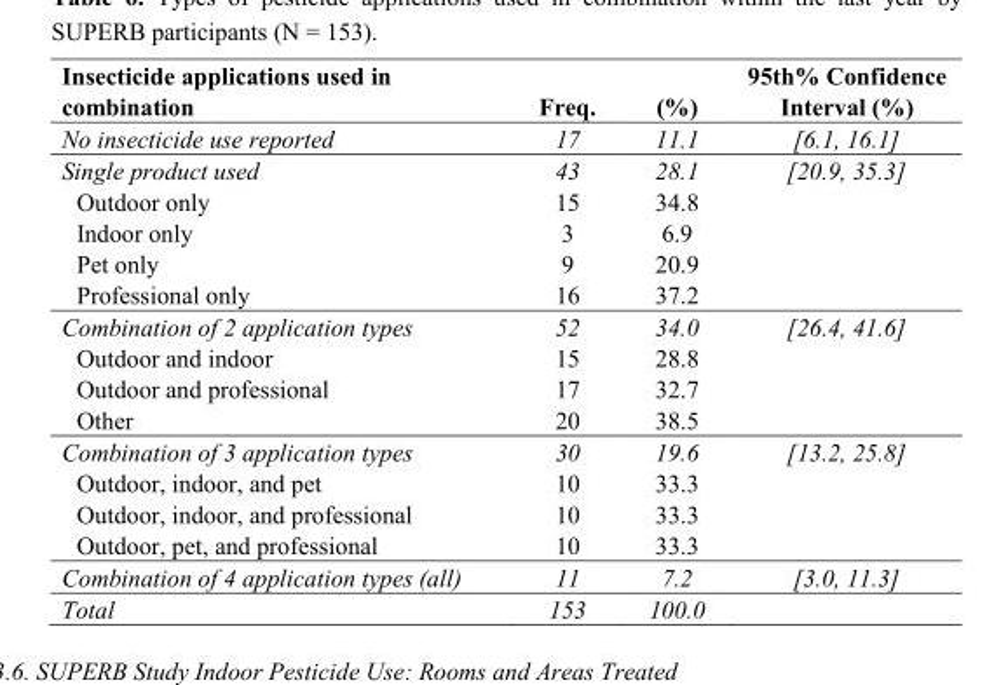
<table><thead><tr><td>Insecticide applications used in combination</td><td>Freq.</td><td>(%)</td><td>95th% Confidence Interval (%)</td></tr></thead><tbody><tr><td>No insecticide use reported</td><td>17</td><td>11.1</td><td>[6.1, 16.1]</td></tr><tr><td>Single product used</td><td>43</td><td>28.1</td><td>[20.9, 35.3]</td></tr><tr><td>Outdoor only</td><td>15</td><td>34.8</td><td></td></tr><tr><td>Indoor only</td><td>3</td><td>6.9</td><td></td></tr><tr><td>Pet only</td><td>9</td><td>20.9</td><td></td></tr><tr><td>Professional only</td><td>16</td><td>37.2</td><td></td></tr><tr><td>Combination of 2 application types</td><td>52</td><td>34.0</td><td>[26.4, 41.6]</td></tr><tr><td>Outdoor and indoor</td><td>15</td><td>28.8</td><td></td></tr><tr><td>Outdoor and professional</td><td>17</td><td>32.7</td><td></td></tr><tr><td>Other</td><td>20</td><td>38.5</td><td></td></tr><tr><td>Combination of 3 application types</td><td>30</td><td>19.6</td><td>[13.2, 25.8]</td></tr><tr><td>Outdoor, indoor, and pet</td><td>10</td><td>33.3</td><td></td></tr><tr><td>Outdoor, indoor, and professional</td><td>10</td><td>33.3</td><td></td></tr><tr><td>Outdoor, pet, and professional</td><td>10</td><td>33.3</td><td></td></tr><tr><td>Combination of 4 application types (all)</td><td>11</td><td>7.2</td><td>[3.0, 11.3]</td></tr><tr><td>Total</td><td>153</td><td>100.0</td><td></td></tr></tbody></table>